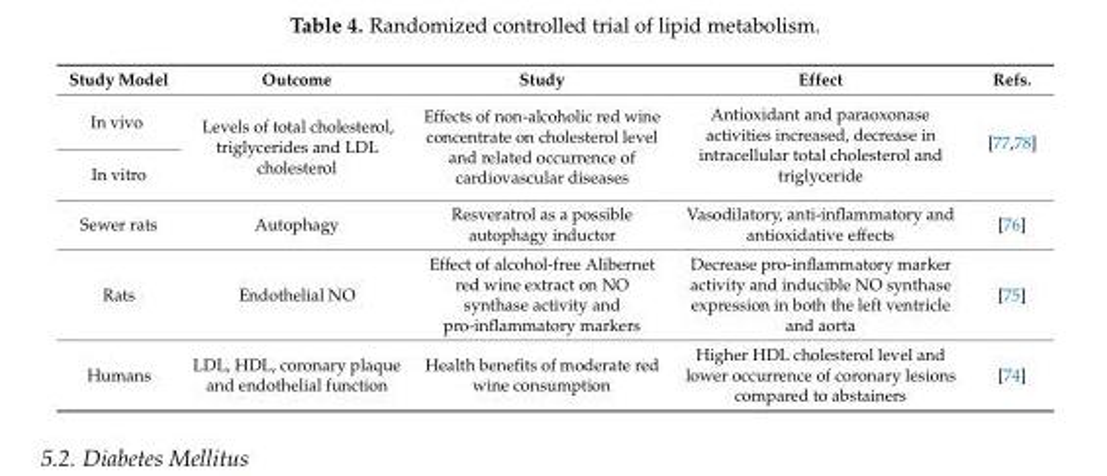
<table><thead><tr><td>Study Model</td><td>Outcome</td><td>Study</td><td>Effect</td><td>Refs.</td></tr></thead><tbody><tr><td>In vivo</td><td rowspan="2">Levels of total cholesterol, triglycerides and LDL cholesterol</td><td rowspan="2">Effects of non-alcoholic red wine concentrate on cholesterol level and related occurrence of cardiovascular diseases</td><td rowspan="2">Antioxidant and paraoxonase activities increased, decrease in intracellular total cholesterol and triglyceride</td><td rowspan="2">[77,78]</td></tr><tr><td>In vitro</td></tr><tr><td>Sewer rats</td><td>Autophagy</td><td>Resveratrol as a possible autophagy inductor</td><td>Vasodilatory, anti-inflammatory and antioxidative effects</td><td>[76]</td></tr><tr><td>Rats</td><td>Endothelial NO</td><td>Effect of alcohol-free Alibernet red wine extract on NO synthase activity and pro-inflammatory markers</td><td>Decrease pro-inflammatory marker activity and inducible NO synthase expression in both the left ventricle and aorta</td><td>[75]</td></tr><tr><td>Humans</td><td>LDL, HDL, coronary plaque and endothelial function</td><td>Health benefits of moderate red wine consumption</td><td>Higher HDL cholesterol level and lower occurrence of coronary lesions compared to abstainers</td><td>[74]</td></tr></tbody></table>